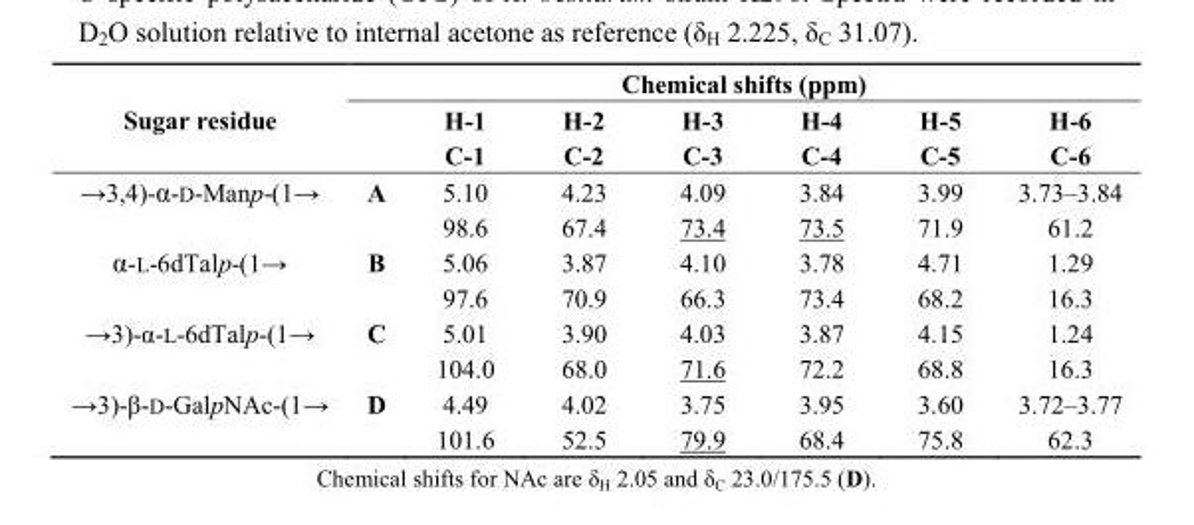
<table><thead><tr><td rowspan="2">Sugar residue</td><td colspan="7">Chemical shifts (ppm)</td></tr><tr><td></td><td>H-1 C-1</td><td>H-2 C-2</td><td>H-3 C-3</td><td>H-4 C-4</td><td>H-5 C-5</td><td>H-6 C-6</td></tr></thead><tbody><tr><td rowspan="2">→3,4)-α-D-Manp-(1→</td><td>A</td><td>5.10</td><td>4.23</td><td>4.09</td><td>3.84</td><td>3.99</td><td>3.73–3.84</td></tr><tr><td></td><td>98.6</td><td>67.4</td><td>73.4</td><td>73.5</td><td>71.9</td><td>61.2</td></tr><tr><td rowspan="2">α-L-6dTalp-(1→</td><td>B</td><td>5.06</td><td>3.87</td><td>4.10</td><td>3.78</td><td>4.71</td><td>1.29</td></tr><tr><td></td><td>97.6</td><td>70.9</td><td>66.3</td><td>73.4</td><td>68.2</td><td>16.3</td></tr><tr><td rowspan="2">→3)-α-L-6dTalp-(1→</td><td>C</td><td>5.01</td><td>3.90</td><td>4.03</td><td>3.87</td><td>4.15</td><td>1.24</td></tr><tr><td></td><td>104.0</td><td>68.0</td><td>71.6</td><td>72.2</td><td>68.8</td><td>16.3</td></tr><tr><td rowspan="2">→3)-β-D-GalpNAc-(1→</td><td>D</td><td>4.49</td><td>4.02</td><td>3.75</td><td>3.95</td><td>3.60</td><td>3.72–3.77</td></tr><tr><td></td><td>101.6</td><td>52.5</td><td>79.9</td><td>68.4</td><td>75.8</td><td>62.3</td></tr></tbody></table>